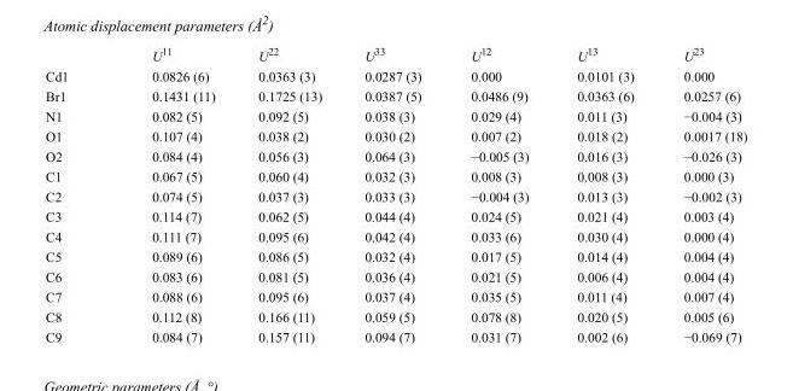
<table><thead><tr><td></td><td>U<sup>11</sup></td><td>U<sup>22</sup></td><td>U<sup>33</sup></td><td>U<sup>12</sup></td><td>U<sup>13</sup></td><td>U<sup>23</sup></td></tr></thead><tbody><tr><td>Cd1</td><td>0.0826 (6)</td><td>0.0363 (3)</td><td>0.0287 (3)</td><td>0.000</td><td>0.0101 (3)</td><td>0.000</td></tr><tr><td>Br1</td><td>0.1431 (11)</td><td>0.1725 (13)</td><td>0.0387 (5)</td><td>0.0486 (9)</td><td>0.0363 (6)</td><td>0.0257 (6)</td></tr><tr><td>N1</td><td>0.082 (5)</td><td>0.092 (5)</td><td>0.038 (3)</td><td>0.029 (4)</td><td>0.011 (3)</td><td>−0.004 (3)</td></tr><tr><td>O1</td><td>0.107 (4)</td><td>0.038 (2)</td><td>0.030 (2)</td><td>0.007 (2)</td><td>0.018 (2)</td><td>0.0017 (18)</td></tr><tr><td>O2</td><td>0.084 (4)</td><td>0.056 (3)</td><td>0.064 (3)</td><td>−0.005 (3)</td><td>0.016 (3)</td><td>−0.026 (3)</td></tr><tr><td>C1</td><td>0.067 (5)</td><td>0.060 (4)</td><td>0.032 (3)</td><td>0.008 (3)</td><td>0.008 (3)</td><td>0.000 (3)</td></tr><tr><td>C2</td><td>0.074 (5)</td><td>0.037 (3)</td><td>0.033 (3)</td><td>−0.004 (3)</td><td>0.013 (3)</td><td>−0.002 (3)</td></tr><tr><td>C3</td><td>0.114 (7)</td><td>0.062 (5)</td><td>0.044 (4)</td><td>0.024 (5)</td><td>0.021 (4)</td><td>0.003 (4)</td></tr><tr><td>C4</td><td>0.111 (7)</td><td>0.095 (6)</td><td>0.042 (4)</td><td>0.033 (6)</td><td>0.030 (4)</td><td>0.000 (4)</td></tr><tr><td>C5</td><td>0.089 (6)</td><td>0.086 (5)</td><td>0.032 (4)</td><td>0.017 (5)</td><td>0.014 (4)</td><td>0.004 (4)</td></tr><tr><td>C6</td><td>0.083 (6)</td><td>0.081 (5)</td><td>0.036 (4)</td><td>0.021 (5)</td><td>0.006 (4)</td><td>0.004 (4)</td></tr><tr><td>C7</td><td>0.088 (6)</td><td>0.095 (6)</td><td>0.037 (4)</td><td>0.035 (5)</td><td>0.011 (4)</td><td>0.007 (4)</td></tr><tr><td>C8</td><td>0.112 (8)</td><td>0.166 (11)</td><td>0.059 (5)</td><td>0.078 (8)</td><td>0.020 (5)</td><td>0.005 (6)</td></tr><tr><td>C9</td><td>0.084 (7)</td><td>0.157 (11)</td><td>0.094 (7)</td><td>0.031 (7)</td><td>0.002 (6)</td><td>−0.069 (7)</td></tr></tbody></table>